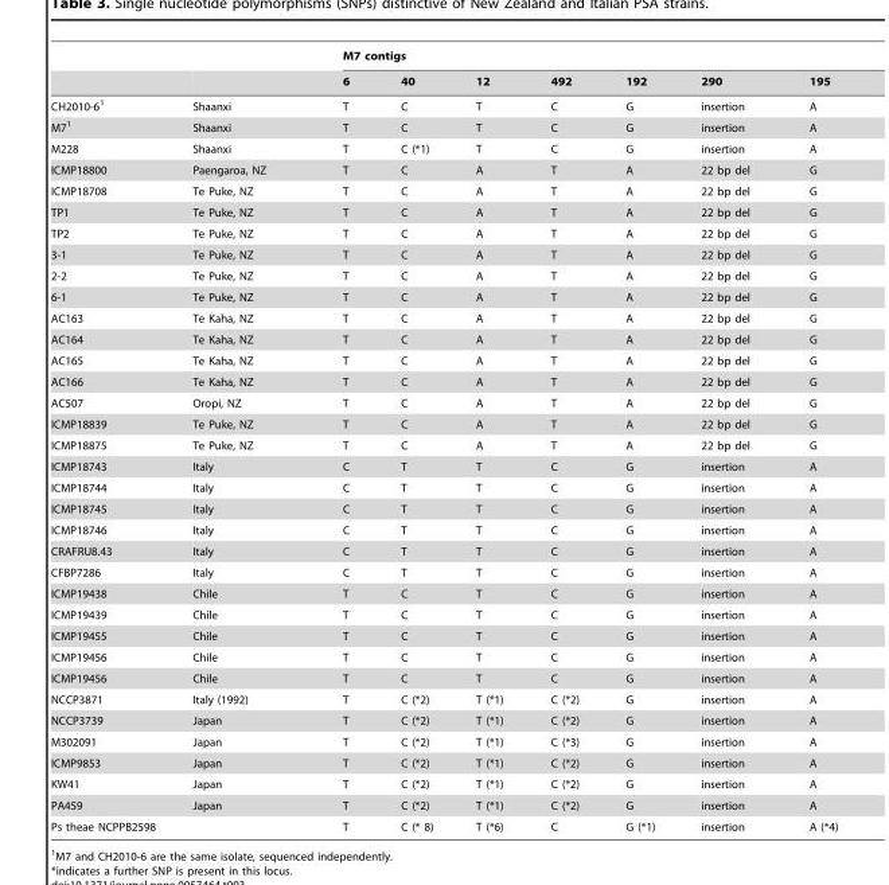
<table><thead><tr><td rowspan="2"></td><td rowspan="2"></td><td colspan="7">M7 contigs</td></tr><tr><td>6</td><td>40</td><td>12</td><td>492</td><td>192</td><td>290</td><td>195</td></tr></thead><tbody><tr><td>CH2010-6<sup>1</sup></td><td>Shaanxi</td><td>T</td><td>C</td><td>T</td><td>C</td><td>G</td><td>insertion</td><td>A</td></tr><tr><td>M7<sup>1</sup></td><td>Shaanxi</td><td>T</td><td>C</td><td>T</td><td>C</td><td>G</td><td>insertion</td><td>A</td></tr><tr><td>M228</td><td>Shaanxi</td><td>T</td><td>C (*1)</td><td>T</td><td>C</td><td>G</td><td>insertion</td><td>A</td></tr><tr><td>ICMP18800</td><td>Paengaroa, NZ</td><td>T</td><td>C</td><td>A</td><td>T</td><td>A</td><td>22 bp del</td><td>G</td></tr><tr><td>ICMP18708</td><td>Te Puke, NZ</td><td>T</td><td>C</td><td>A</td><td>T</td><td>A</td><td>22 bp del</td><td>G</td></tr><tr><td>TP1</td><td>Te Puke, NZ</td><td>T</td><td>C</td><td>A</td><td>T</td><td>A</td><td>22 bp del</td><td>G</td></tr><tr><td>TP2</td><td>Te Puke, NZ</td><td>T</td><td>C</td><td>A</td><td>T</td><td>A</td><td>22 bp del</td><td>G</td></tr><tr><td>3-1</td><td>Te Puke, NZ</td><td>T</td><td>C</td><td>A</td><td>T</td><td>A</td><td>22 bp del</td><td>G</td></tr><tr><td>2-2</td><td>Te Puke, NZ</td><td>T</td><td>C</td><td>A</td><td>T</td><td>A</td><td>22 bp del</td><td>G</td></tr><tr><td>6-1</td><td>Te Puke, NZ</td><td>T</td><td>C</td><td>A</td><td>T</td><td>A</td><td>22 bp del</td><td>G</td></tr><tr><td>AC163</td><td>Te Kaha, NZ</td><td>T</td><td>C</td><td>A</td><td>T</td><td>A</td><td>22 bp del</td><td>G</td></tr><tr><td>AC164</td><td>Te Kaha, NZ</td><td>T</td><td>C</td><td>A</td><td>T</td><td>A</td><td>22 bp del</td><td>G</td></tr><tr><td>AC165</td><td>Te Kaha, NZ</td><td>T</td><td>C</td><td>A</td><td>T</td><td>A</td><td>22 bp del</td><td>G</td></tr><tr><td>AC166</td><td>Te Kaha, NZ</td><td>T</td><td>C</td><td>A</td><td>T</td><td>A</td><td>22 bp del</td><td>G</td></tr><tr><td>AC507</td><td>Oropi, NZ</td><td>T</td><td>C</td><td>A</td><td>T</td><td>A</td><td>22 bp del</td><td>G</td></tr><tr><td>ICMP18839</td><td>Te Puke, NZ</td><td>T</td><td>C</td><td>A</td><td>T</td><td>A</td><td>22 bp del</td><td>G</td></tr><tr><td>ICMP18875</td><td>Te Puke, NZ</td><td>T</td><td>C</td><td>A</td><td>T</td><td>A</td><td>22 bp del</td><td>G</td></tr><tr><td>ICMP18743</td><td>Italy</td><td>C</td><td>T</td><td>T</td><td>C</td><td>G</td><td>insertion</td><td>A</td></tr><tr><td>ICMP18744</td><td>Italy</td><td>C</td><td>T</td><td>T</td><td>C</td><td>G</td><td>insertion</td><td>A</td></tr><tr><td>ICMP18745</td><td>Italy</td><td>C</td><td>T</td><td>T</td><td>C</td><td>G</td><td>insertion</td><td>A</td></tr><tr><td>ICMP18746</td><td>Italy</td><td>C</td><td>T</td><td>T</td><td>C</td><td>G</td><td>insertion</td><td>A</td></tr><tr><td>CRAFRU8.43</td><td>Italy</td><td>C</td><td>T</td><td>T</td><td>C</td><td>G</td><td>insertion</td><td>A</td></tr><tr><td>CFBP7286</td><td>Italy</td><td>C</td><td>T</td><td>T</td><td>C</td><td>G</td><td>insertion</td><td>A</td></tr><tr><td>ICMP19438</td><td>Chile</td><td>T</td><td>C</td><td>T</td><td>C</td><td>G</td><td>insertion</td><td>A</td></tr><tr><td>ICMP19439</td><td>Chile</td><td>T</td><td>C</td><td>T</td><td>C</td><td>G</td><td>insertion</td><td>A</td></tr><tr><td>ICMP19455</td><td>Chile</td><td>T</td><td>C</td><td>T</td><td>C</td><td>G</td><td>insertion</td><td>A</td></tr><tr><td>ICMP19456</td><td>Chile</td><td>T</td><td>C</td><td>T</td><td>C</td><td>G</td><td>insertion</td><td>A</td></tr><tr><td>ICMP19456</td><td>Chile</td><td>T</td><td>C</td><td>T</td><td>C</td><td>G</td><td>insertion</td><td>A</td></tr><tr><td>NCCP3871</td><td>Italy (1992)</td><td>T</td><td>C (*2)</td><td>T (*1)</td><td>C (*2)</td><td>G</td><td>insertion</td><td>A</td></tr><tr><td>NCCP3739</td><td>Japan</td><td>T</td><td>C (*2)</td><td>T (*1)</td><td>C (*2)</td><td>G</td><td>insertion</td><td>A</td></tr><tr><td>M302091</td><td>Japan</td><td>T</td><td>C (*2)</td><td>T (*1)</td><td>C (*3)</td><td>G</td><td>insertion</td><td>A</td></tr><tr><td>ICMP9853</td><td>Japan</td><td>T</td><td>C (*2)</td><td>T (*1)</td><td>C (*2)</td><td>G</td><td>insertion</td><td>A</td></tr><tr><td>KW41</td><td>Japan</td><td>T</td><td>C (*2)</td><td>T (*1)</td><td>C (*2)</td><td>G</td><td>insertion</td><td>A</td></tr><tr><td>PA459</td><td>Japan</td><td>T</td><td>C (*2)</td><td>T (*1)</td><td>C (*2)</td><td>G</td><td>insertion</td><td>A</td></tr><tr><td>Ps theae NCPPB2598</td><td></td><td>T</td><td>C (* 8)</td><td>T (*6)</td><td>C</td><td>G (*1)</td><td>insertion</td><td>A (*4)</td></tr></tbody></table>